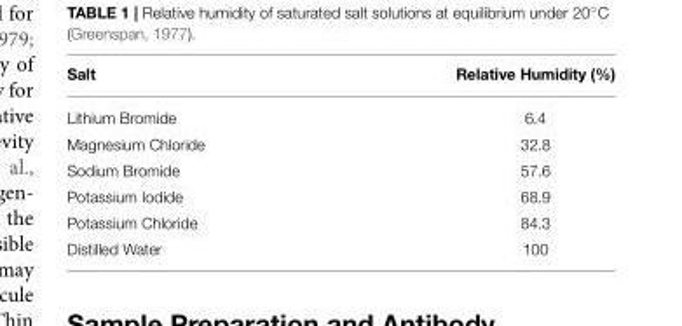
<table><thead><tr><td>Salt</td><td>Relative Humidity (%)</td></tr></thead><tbody><tr><td>Lithium Bromide</td><td>6.4</td></tr><tr><td>Magnesium Chloride</td><td>32.8</td></tr><tr><td>Sodium Bromide</td><td>57.6</td></tr><tr><td>Potassium Iodide</td><td>68.9</td></tr><tr><td>Potassium Chloride</td><td>84.3</td></tr><tr><td>Distilled Water</td><td>100</td></tr></tbody></table>